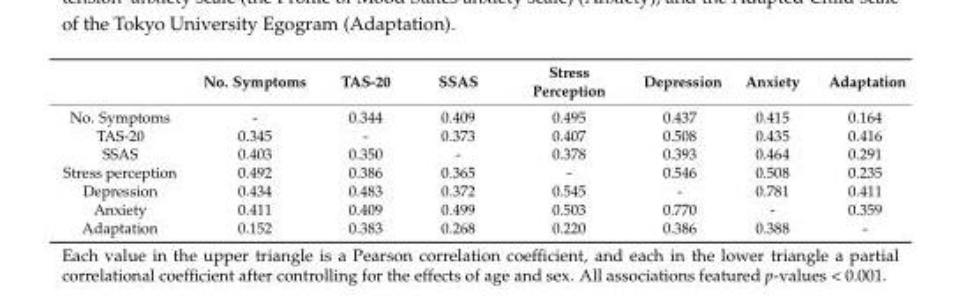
<table><thead><tr><td></td><td>No. Symptoms</td><td>TAS-20</td><td>SSAS</td><td>Stress Perception</td><td>Depression</td><td>Anxiety</td><td>Adaptation</td></tr></thead><tbody><tr><td>No. Symptoms</td><td>-</td><td>0.344</td><td>0.409</td><td>0.495</td><td>0.437</td><td>0.415</td><td>0.164</td></tr><tr><td>TAS-20</td><td>0.345</td><td>-</td><td>0.373</td><td>0.407</td><td>0.508</td><td>0.435</td><td>0.416</td></tr><tr><td>SSAS</td><td>0.403</td><td>0.350</td><td>-</td><td>0.378</td><td>0.393</td><td>0.464</td><td>0.291</td></tr><tr><td>Stress perception</td><td>0.492</td><td>0.386</td><td>0.365</td><td>-</td><td>0.546</td><td>0.508</td><td>0.235</td></tr><tr><td>Depression</td><td>0.434</td><td>0.483</td><td>0.372</td><td>0.545</td><td>-</td><td>0.781</td><td>0.411</td></tr><tr><td>Anxiety</td><td>0.411</td><td>0.409</td><td>0.499</td><td>0.503</td><td>0.770</td><td>-</td><td>0.359</td></tr><tr><td>Adaptation</td><td>0.152</td><td>0.383</td><td>0.268</td><td>0.220</td><td>0.386</td><td>0.388</td><td>-</td></tr></tbody></table>